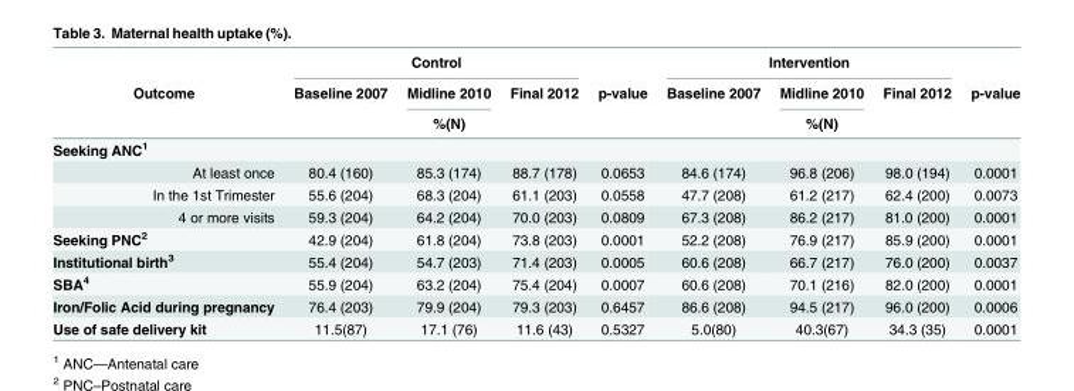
<table><thead><tr><td rowspan="3">Outcome</td><td colspan="3">Control</td><td rowspan="3">p-value</td><td colspan="3">Intervention</td><td rowspan="3">p-value</td></tr><tr><td rowspan="2">Baseline 2007</td><td rowspan="2">Midline 2010 %(N)</td><td rowspan="2">Final 2012</td><td rowspan="2">Baseline 2007</td><td rowspan="2">Midline 2010 %(N)</td><td rowspan="2">Final 2012</td></tr><tr></tr></thead><tbody><tr><td colspan="9">Seeking ANC<sup>1</sup></td></tr><tr><td>At least once</td><td>80.4 (160)</td><td>85.3 (174)</td><td>88.7 (178)</td><td>0.0653</td><td>84.6 (174)</td><td>96.8 (206)</td><td>98.0 (194)</td><td>0.0001</td></tr><tr><td>In the 1st Trimester</td><td>55.6 (204)</td><td>68.3 (204)</td><td>61.1 (203)</td><td>0.0558</td><td>47.7 (208)</td><td>61.2 (217)</td><td>62.4 (200)</td><td>0.0073</td></tr><tr><td>4 or more visits</td><td>59.3 (204)</td><td>64.2 (204)</td><td>70.0 (203)</td><td>0.0809</td><td>67.3 (208)</td><td>86.2 (217)</td><td>81.0 (200)</td><td>0.0001</td></tr><tr><td>Seeking PNC<sup>2</sup></td><td>42.9 (204)</td><td>61.8 (204)</td><td>73.8 (203)</td><td>0.0001</td><td>52.2 (208)</td><td>76.9 (217)</td><td>85.9 (200)</td><td>0.0001</td></tr><tr><td>Institutional birth<sup>3</sup></td><td>55.4 (204)</td><td>54.7 (203)</td><td>71.4 (203)</td><td>0.0005</td><td>60.6 (208)</td><td>66.7 (217)</td><td>76.0 (200)</td><td>0.0037</td></tr><tr><td>SBA<sup>4</sup></td><td>55.9 (204)</td><td>63.2 (204)</td><td>75.4 (204)</td><td>0.0007</td><td>60.6 (208)</td><td>70.1 (216)</td><td>82.0 (200)</td><td>0.0001</td></tr><tr><td>Iron/Folic Acid during pregnancy</td><td>76.4 (203)</td><td>79.9 (204)</td><td>79.3 (203)</td><td>0.6457</td><td>86.6 (208)</td><td>94.5 (217)</td><td>96.0 (200)</td><td>0.0006</td></tr><tr><td>Use of safe delivery kit</td><td>11.5(87)</td><td>17.1 (76)</td><td>11.6 (43)</td><td>0.5327</td><td>5.0(80)</td><td>40.3(67)</td><td>34.3 (35)</td><td>0.0001</td></tr></tbody></table>